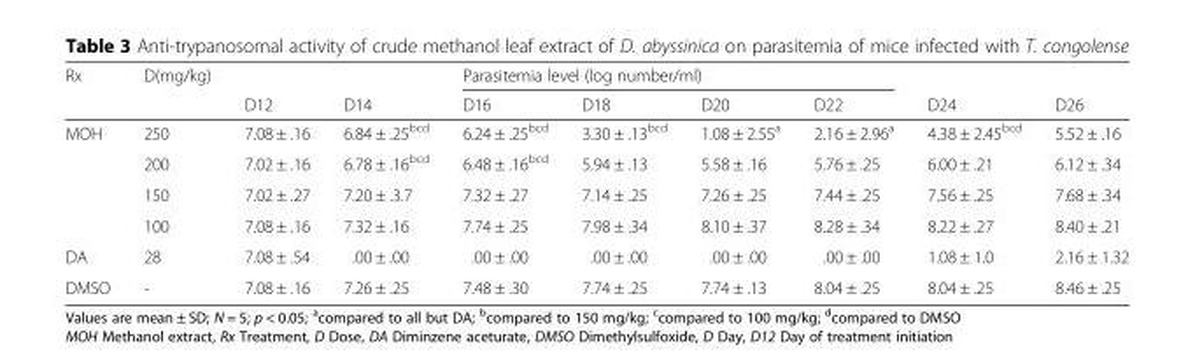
<table><thead><tr><td rowspan="2">Rx</td><td rowspan="2">D(mg/kg)</td><td rowspan="2">D12</td><td rowspan="2">D14</td><td colspan="4">Parasitemia level (log number/ml)</td><td rowspan="2">D24</td><td rowspan="2">D26</td></tr><tr><td>D16</td><td>D18</td><td>D20</td><td>D22</td></tr></thead><tbody><tr><td rowspan="4">MOH</td><td>250</td><td>7.08 ± .16</td><td>6.84 ± .25<sup>bcd</sup></td><td>6.24 ± .25<sup>bcd</sup></td><td>3.30 ± .13<sup>bcd</sup></td><td>1.08 ± 2.55<sup>a</sup></td><td>2.16 ± 2.96<sup>a</sup></td><td>4.38 ± 2.45<sup>bcd</sup></td><td>5.52 ± .16</td></tr><tr><td>200</td><td>7.02 ± .16</td><td>6.78 ± .16<sup>bcd</sup></td><td>6.48 ± .16<sup>bcd</sup></td><td>5.94 ± .13</td><td>5.58 ± .16</td><td>5.76 ± .25</td><td>6.00 ± .21</td><td>6.12 ± .34</td></tr><tr><td>150</td><td>7.02 ± .27</td><td>7.20 ± .3.7</td><td>7.32 ± .27</td><td>7.14 ± .25</td><td>7.26 ± .25</td><td>7.44 ± .25</td><td>7.56 ± .25</td><td>7.68 ± .34</td></tr><tr><td>100</td><td>7.08 ± .16</td><td>7.32 ± .16</td><td>7.74 ± .25</td><td>7.98 ± .34</td><td>8.10 ± .37</td><td>8.28 ± .34</td><td>8.22 ± .27</td><td>8.40 ± .21</td></tr><tr><td>DA</td><td>28</td><td>7.08 ± .54</td><td>.00 ± .00</td><td>.00 ± .00</td><td>.00 ± .00</td><td>.00 ± .00</td><td>.00 ± .00</td><td>1.08 ± 1.0</td><td>2.16 ± 1.32</td></tr><tr><td>DMSO</td><td>-</td><td>7.08 ± .16</td><td>7.26 ± .25</td><td>7.48 ± .30</td><td>7.74 ± .25</td><td>7.74 ± .13</td><td>8.04 ± .25</td><td>8.04 ± .25</td><td>8.46 ± .25</td></tr></tbody></table>